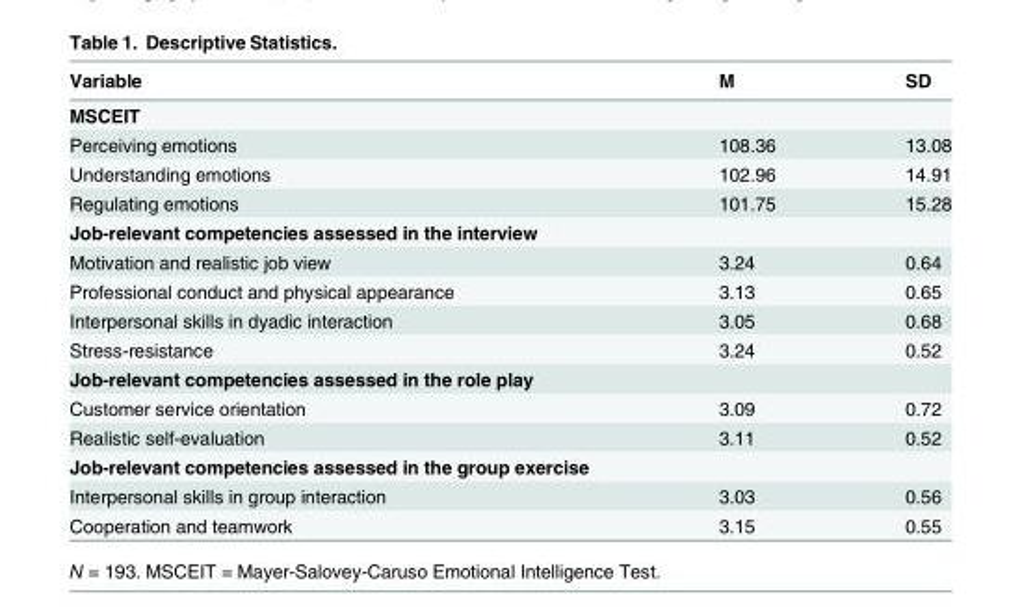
<table><thead><tr><td>Variable</td><td>M</td><td>SD</td></tr></thead><tbody><tr><td colspan="3">MSCEIT</td></tr><tr><td>Perceiving emotions</td><td>108.36</td><td>13.08</td></tr><tr><td>Understanding emotions</td><td>102.96</td><td>14.91</td></tr><tr><td>Regulating emotions</td><td>101.75</td><td>15.28</td></tr><tr><td colspan="3">Job-relevant competencies assessed in the interview</td></tr><tr><td>Motivation and realistic job view</td><td>3.24</td><td>0.64</td></tr><tr><td>Professional conduct and physical appearance</td><td>3.13</td><td>0.65</td></tr><tr><td>Interpersonal skills in dyadic interaction</td><td>3.05</td><td>0.68</td></tr><tr><td>Stress-resistance</td><td>3.24</td><td>0.52</td></tr><tr><td colspan="3">Job-relevant competencies assessed in the role play</td></tr><tr><td>Customer service orientation</td><td>3.09</td><td>0.72</td></tr><tr><td>Realistic self-evaluation</td><td>3.11</td><td>0.52</td></tr><tr><td colspan="3">Job-relevant competencies assessed in the group exercise</td></tr><tr><td>Interpersonal skills in group interaction</td><td>3.03</td><td>0.56</td></tr><tr><td>Cooperation and teamwork</td><td>3.15</td><td>0.55</td></tr></tbody></table>